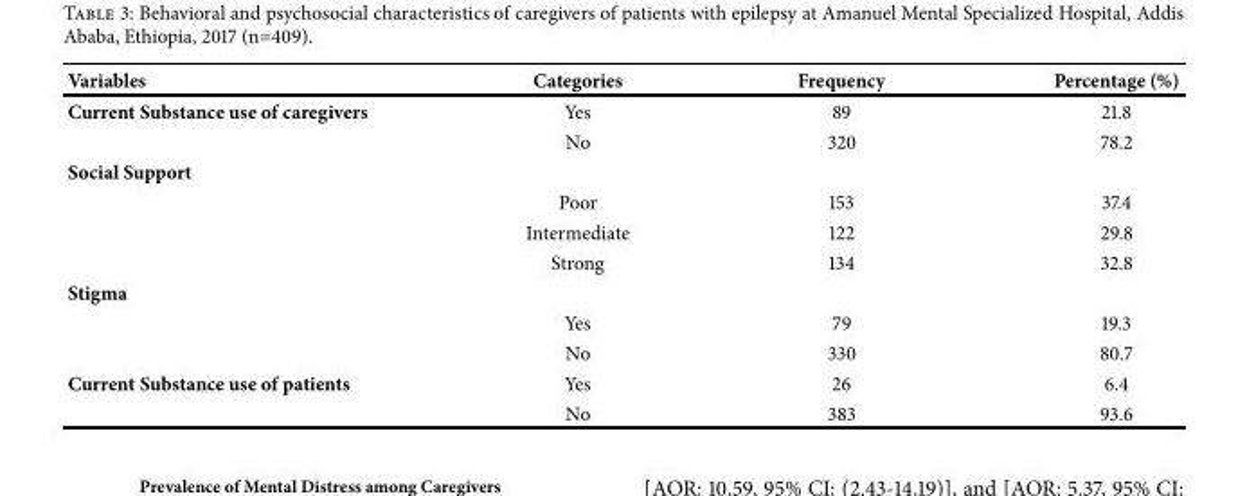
<table><thead><tr><td>Variables</td><td>Categories</td><td>Frequency</td><td>Percentage (%)</td></tr></thead><tbody><tr><td rowspan="2">Current Substance use of caregivers</td><td>Yes</td><td>89</td><td>21.8</td></tr><tr><td>No</td><td>320</td><td>78.2</td></tr><tr><td colspan="4">Social Support</td></tr><tr><td></td><td>Poor</td><td>153</td><td>37.4</td></tr><tr><td></td><td>Intermediate</td><td>122</td><td>29.8</td></tr><tr><td></td><td>Strong</td><td>134</td><td>32.8</td></tr><tr><td colspan="4">Stigma</td></tr><tr><td></td><td>Yes</td><td>79</td><td>19.3</td></tr><tr><td></td><td>No</td><td>330</td><td>80.7</td></tr><tr><td rowspan="2">Current Substance use of patients</td><td>Yes</td><td>26</td><td>6.4</td></tr><tr><td>No</td><td>383</td><td>93.6</td></tr></tbody></table>